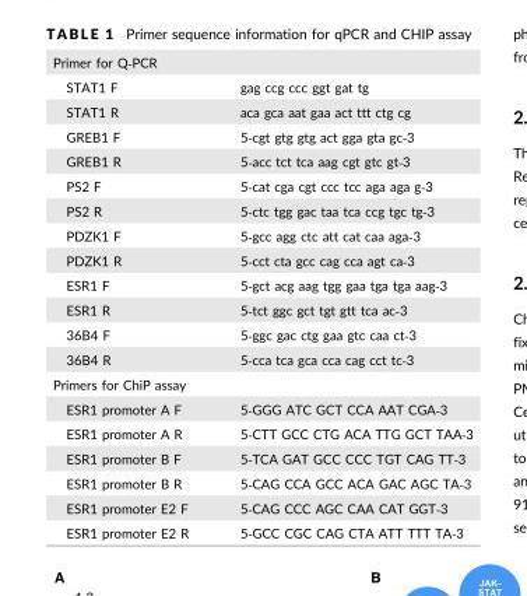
<table><tbody><tr><td colspan="2">Primer for Q‐PCR</td></tr><tr><td>STAT1 F</td><td>gag ccg ccc ggt gat tg</td></tr><tr><td>STAT1 R</td><td>aca gca aat gaa act ttt ctg cg</td></tr><tr><td>GREB1 F</td><td>5‐cgt gtg gtg act gga gta gc‐3</td></tr><tr><td>GREB1 R</td><td>5‐acc tct tca aag cgt gtc gt‐3</td></tr><tr><td>PS2 F</td><td>5‐cat cga cgt ccc tcc aga aga g‐3</td></tr><tr><td>PS2 R</td><td>5‐ctc tgg gac taa tca ccg tgc tg‐3</td></tr><tr><td>PDZK1 F</td><td>5‐gcc agg ctc att cat caa aga‐3</td></tr><tr><td>PDZK1 R</td><td>5‐cct cta gcc cag cca agt ca‐3</td></tr><tr><td>ESR1 F</td><td>5‐gct acg aag tgg gaa tga tga aag‐3</td></tr><tr><td>ESR1 R</td><td>5‐tct ggc gct tgt gtt tca ac‐3</td></tr><tr><td>36B4 F</td><td>5‐ggc gac ctg gaa gtc caa ct‐3</td></tr><tr><td>36B4 R</td><td>5‐cca tca gca cca cag cct tc‐3</td></tr><tr><td colspan="2">Primers for ChiP assay</td></tr><tr><td>ESR1 promoter A F</td><td>5‐GGG ATC GCT CCA AAT CGA‐3</td></tr><tr><td>ESR1 promoter A R</td><td>5‐CTT GCC CTG ACA TTG GCT TAA‐3</td></tr><tr><td>ESR1 promoter B F</td><td>5‐TCA GAT GCC CCC TGT CAG TT‐3</td></tr><tr><td>ESR1 promoter B R</td><td>5‐CAG CCA GCC ACA GAC AGC TA‐3</td></tr><tr><td>ESR1 promoter E2 F</td><td>5‐CAG CCC AGC CAA CAT GGT‐3</td></tr><tr><td>ESR1 promoter E2 R</td><td>5‐GCC CGC CAG CTA ATT TTT TA‐3</td></tr></tbody></table>